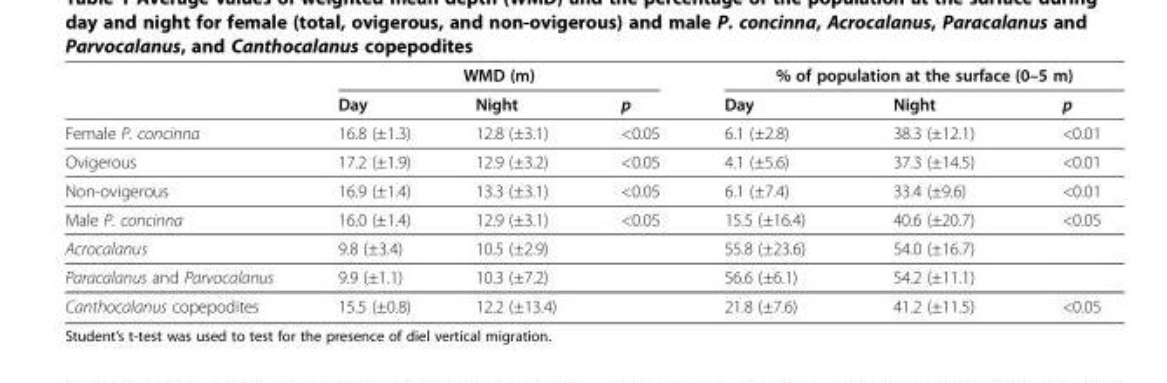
<table><thead><tr><td rowspan="2"></td><td colspan="3">WMD (m)</td><td colspan="3">% of population at the surface (0–5 m)</td></tr><tr><td>Day</td><td>Night</td><td>p</td><td>Day</td><td>Night</td><td>p</td></tr></thead><tbody><tr><td>Female P. concinna</td><td>16.8 (±1.3)</td><td>12.8 (±3.1)</td><td>&lt;0.05</td><td>6.1 (±2.8)</td><td>38.3 (±12.1)</td><td>&lt;0.01</td></tr><tr><td>Ovigerous</td><td>17.2 (±1.9)</td><td>12.9 (±3.2)</td><td>&lt;0.05</td><td>4.1 (±5.6)</td><td>37.3 (±14.5)</td><td>&lt;0.01</td></tr><tr><td>Non-ovigerous</td><td>16.9 (±1.4)</td><td>13.3 (±3.1)</td><td>&lt;0.05</td><td>6.1 (±7.4)</td><td>33.4 (±9.6)</td><td>&lt;0.01</td></tr><tr><td>Male P. concinna</td><td>16.0 (±1.4)</td><td>12.9 (±3.1)</td><td>&lt;0.05</td><td>15.5 (±16.4)</td><td>40.6 (±20.7)</td><td>&lt;0.05</td></tr><tr><td>Acrocalanus</td><td>9.8 (±3.4)</td><td>10.5 (±2.9)</td><td></td><td>55.8 (±23.6)</td><td>54.0 (±16.7)</td><td></td></tr><tr><td>Paracalanus and Parvocalanus</td><td>9.9 (±1.1)</td><td>10.3 (±7.2)</td><td></td><td>56.6 (±6.1)</td><td>54.2 (±11.1)</td><td></td></tr><tr><td>Canthocalanus copepodites</td><td>15.5 (±0.8)</td><td>12.2 (±13.4)</td><td></td><td>21.8 (±7.6)</td><td>41.2 (±11.5)</td><td>&lt;0.05</td></tr></tbody></table>